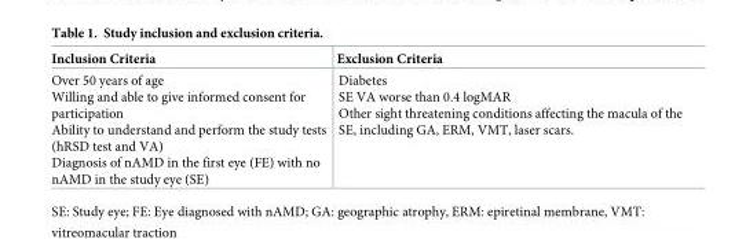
<table><thead><tr><td>Inclusion Criteria</td><td>Exclusion Criteria</td></tr></thead><tbody><tr><td>Over 50 years of age Willing and able to give informed consent for participation Ability to understand and perform the study tests (hRSD test and VA) Diagnosis of nAMD in the first eye (FE) with no nAMD in the study eye (SE)</td><td>Diabetes SE VA worse than 0.4 logMAR Other sight threatening conditions affecting the macula of the SE, including GA, ERM, VMT, laser scars.</td></tr></tbody></table>